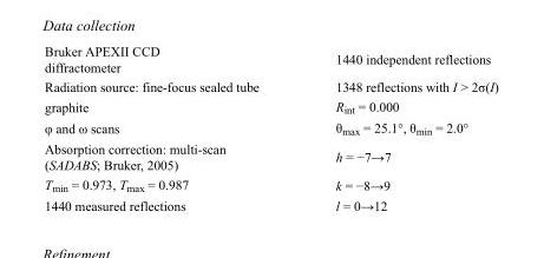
<table><tbody><tr><td>Bruker APEXII CCD diffractometer</td><td>1440 independent reflections</td></tr><tr><td>Radiation source: fine-focus sealed tube</td><td>1348 reflections with I &gt; 2σ(I)</td></tr><tr><td>graphite</td><td>Rint = 0.000</td></tr><tr><td>φ and ω scans</td><td>θ<sub>max</sub> = 25.1°, θ<sub>min</sub> = 2.0°</td></tr><tr><td>Absorption correction: multi-scan (SADABS; Bruker, 2005)</td><td>h = −7→7</td></tr><tr><td>T<sub>min</sub> = 0.973, T<sub>max</sub> = 0.987</td><td>k = −8→9</td></tr><tr><td>1440 measured reflections</td><td>l = 0→12</td></tr></tbody></table>